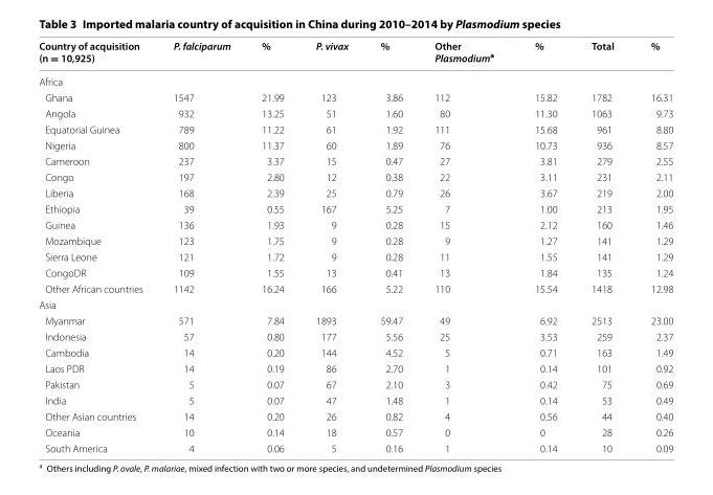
<table><thead><tr><td>Country of acquisition (n = 10,925)</td><td>P. falciparum</td><td>%</td><td>P. vivax</td><td>%</td><td>Other Plasmodium<sup>a</sup></td><td>%</td><td>Total</td><td>%</td></tr></thead><tbody><tr><td colspan="9">Africa</td></tr><tr><td>Ghana</td><td>1547</td><td>21.99</td><td>123</td><td>3.86</td><td>112</td><td>15.82</td><td>1782</td><td>16.31</td></tr><tr><td>Angola</td><td>932</td><td>13.25</td><td>51</td><td>1.60</td><td>80</td><td>11.30</td><td>1063</td><td>9.73</td></tr><tr><td>Equatorial Guinea</td><td>789</td><td>11.22</td><td>61</td><td>1.92</td><td>111</td><td>15.68</td><td>961</td><td>8.80</td></tr><tr><td>Nigeria</td><td>800</td><td>11.37</td><td>60</td><td>1.89</td><td>76</td><td>10.73</td><td>936</td><td>8.57</td></tr><tr><td>Cameroon</td><td>237</td><td>3.37</td><td>15</td><td>0.47</td><td>27</td><td>3.81</td><td>279</td><td>2.55</td></tr><tr><td>Congo</td><td>197</td><td>2.80</td><td>12</td><td>0.38</td><td>22</td><td>3.11</td><td>231</td><td>2.11</td></tr><tr><td>Liberia</td><td>168</td><td>2.39</td><td>25</td><td>0.79</td><td>26</td><td>3.67</td><td>219</td><td>2.00</td></tr><tr><td>Ethiopia</td><td>39</td><td>0.55</td><td>167</td><td>5.25</td><td>7</td><td>1.00</td><td>213</td><td>1.95</td></tr><tr><td>Guinea</td><td>136</td><td>1.93</td><td>9</td><td>0.28</td><td>15</td><td>2.12</td><td>160</td><td>1.46</td></tr><tr><td>Mozambique</td><td>123</td><td>1.75</td><td>9</td><td>0.28</td><td>9</td><td>1.27</td><td>141</td><td>1.29</td></tr><tr><td>Sierra Leone</td><td>121</td><td>1.72</td><td>9</td><td>0.28</td><td>11</td><td>1.55</td><td>141</td><td>1.29</td></tr><tr><td>CongoDR</td><td>109</td><td>1.55</td><td>13</td><td>0.41</td><td>13</td><td>1.84</td><td>135</td><td>1.24</td></tr><tr><td>Other African countries</td><td>1142</td><td>16.24</td><td>166</td><td>5.22</td><td>110</td><td>15.54</td><td>1418</td><td>12.98</td></tr><tr><td colspan="9">Asia</td></tr><tr><td>Myanmar</td><td>571</td><td>7.84</td><td>1893</td><td>59.47</td><td>49</td><td>6.92</td><td>2513</td><td>23.00</td></tr><tr><td>Indonesia</td><td>57</td><td>0.80</td><td>177</td><td>5.56</td><td>25</td><td>3.53</td><td>259</td><td>2.37</td></tr><tr><td>Cambodia</td><td>14</td><td>0.20</td><td>144</td><td>4.52</td><td>5</td><td>0.71</td><td>163</td><td>1.49</td></tr><tr><td>Laos PDR</td><td>14</td><td>0.19</td><td>86</td><td>2.70</td><td>1</td><td>0.14</td><td>101</td><td>0.92</td></tr><tr><td>Pakistan</td><td>5</td><td>0.07</td><td>67</td><td>2.10</td><td>3</td><td>0.42</td><td>75</td><td>0.69</td></tr><tr><td>India</td><td>5</td><td>0.07</td><td>47</td><td>1.48</td><td>1</td><td>0.14</td><td>53</td><td>0.49</td></tr><tr><td>Other Asian countries</td><td>14</td><td>0.20</td><td>26</td><td>0.82</td><td>4</td><td>0.56</td><td>44</td><td>0.40</td></tr><tr><td>Oceania</td><td>10</td><td>0.14</td><td>18</td><td>0.57</td><td>0</td><td>0</td><td>28</td><td>0.26</td></tr><tr><td>South America</td><td>4</td><td>0.06</td><td>5</td><td>0.16</td><td>1</td><td>0.14</td><td>10</td><td>0.09</td></tr></tbody></table>